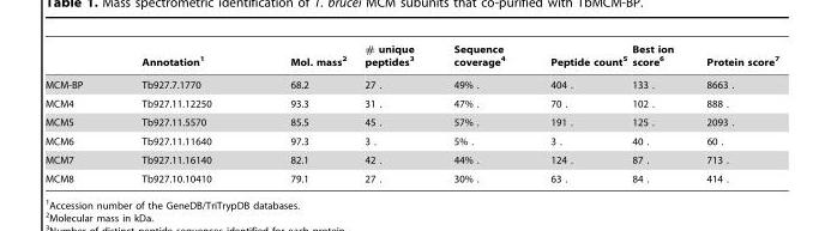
<table><thead><tr><td></td><td>Annotation<sup>1</sup></td><td>Mol. mass<sup>2</sup></td><td># unique peptides<sup>3</sup></td><td>Sequence coverage<sup>4</sup></td><td>Peptide count<sup>5</sup></td><td>Best ion score<sup>6</sup></td><td>Protein score<sup>7</sup></td></tr></thead><tbody><tr><td>MCM-BP</td><td>Tb927.7.1770</td><td>68.2</td><td>27 .</td><td>49% .</td><td>404 .</td><td>133 .</td><td>8663 .</td></tr><tr><td>MCM4</td><td>Tb927.11.12250</td><td>93.3</td><td>31 .</td><td>47% .</td><td>70 .</td><td>102 .</td><td>888 .</td></tr><tr><td>MCM5</td><td>Tb927.11.5570</td><td>85.5</td><td>45 .</td><td>57% .</td><td>191 .</td><td>125 .</td><td>2093 .</td></tr><tr><td>MCM6</td><td>Tb927.11.11640</td><td>97.3</td><td>3 .</td><td>5% .</td><td>3 .</td><td>40 .</td><td>60 .</td></tr><tr><td>MCM7</td><td>Tb927.11.16140</td><td>82.1</td><td>42 .</td><td>44% .</td><td>124 .</td><td>87 .</td><td>713 .</td></tr><tr><td>MCM8</td><td>Tb927.10.10410</td><td>79.1</td><td>27 .</td><td>30% .</td><td>63 .</td><td>84 .</td><td>414 .</td></tr></tbody></table>